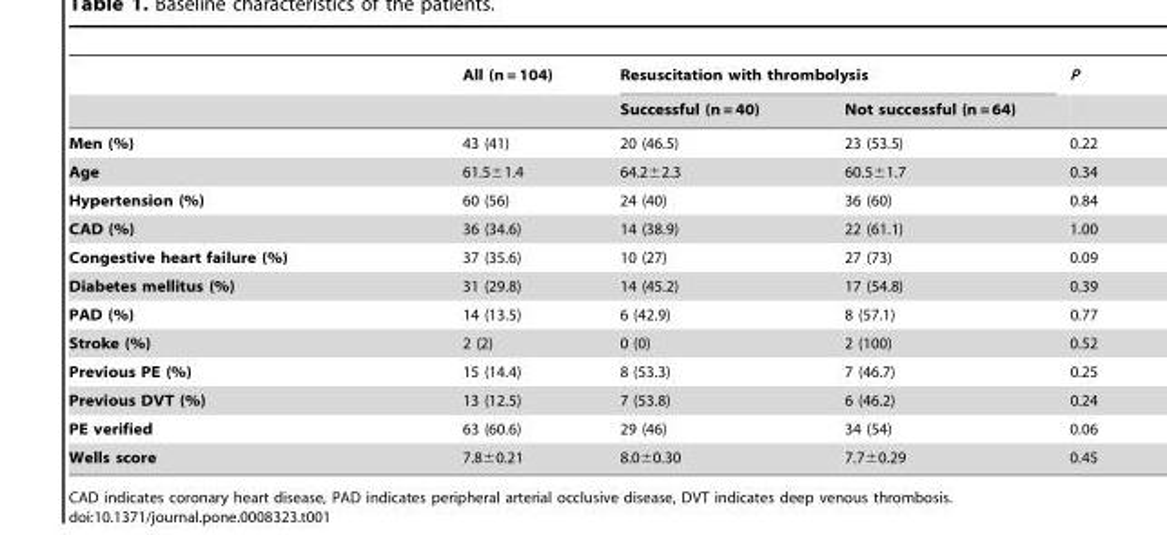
<table><thead><tr><td rowspan="2"></td><td rowspan="2">All (n = 104)</td><td colspan="2">Resuscitation with thrombolysis</td><td rowspan="2">P</td></tr><tr><td>Successful (n = 40)</td><td>Not successful (n = 64)</td></tr></thead><tbody><tr><td>Men (%)</td><td>43 (41)</td><td>20 (46.5)</td><td>23 (53.5)</td><td>0.22</td></tr><tr><td>Age</td><td>61.5±1.4</td><td>64.2±2.3</td><td>60.5±1.7</td><td>0.34</td></tr><tr><td>Hypertension (%)</td><td>60 (56)</td><td>24 (40)</td><td>36 (60)</td><td>0.84</td></tr><tr><td>CAD (%)</td><td>36 (34.6)</td><td>14 (38.9)</td><td>22 (61.1)</td><td>1.00</td></tr><tr><td>Congestive heart failure (%)</td><td>37 (35.6)</td><td>10 (27)</td><td>27 (73)</td><td>0.09</td></tr><tr><td>Diabetes mellitus (%)</td><td>31 (29.8)</td><td>14 (45.2)</td><td>17 (54.8)</td><td>0.39</td></tr><tr><td>PAD (%)</td><td>14 (13.5)</td><td>6 (42.9)</td><td>8 (57.1)</td><td>0.77</td></tr><tr><td>Stroke (%)</td><td>2 (2)</td><td>0 (0)</td><td>2 (100)</td><td>0.52</td></tr><tr><td>Previous PE (%)</td><td>15 (14.4)</td><td>8 (53.3)</td><td>7 (46.7)</td><td>0.25</td></tr><tr><td>Previous DVT (%)</td><td>13 (12.5)</td><td>7 (53.8)</td><td>6 (46.2)</td><td>0.24</td></tr><tr><td>PE verified</td><td>63 (60.6)</td><td>29 (46)</td><td>34 (54)</td><td>0.06</td></tr><tr><td>Wells score</td><td>7.8±0.21</td><td>8.0±0.30</td><td>7.7±0.29</td><td>0.45</td></tr></tbody></table>